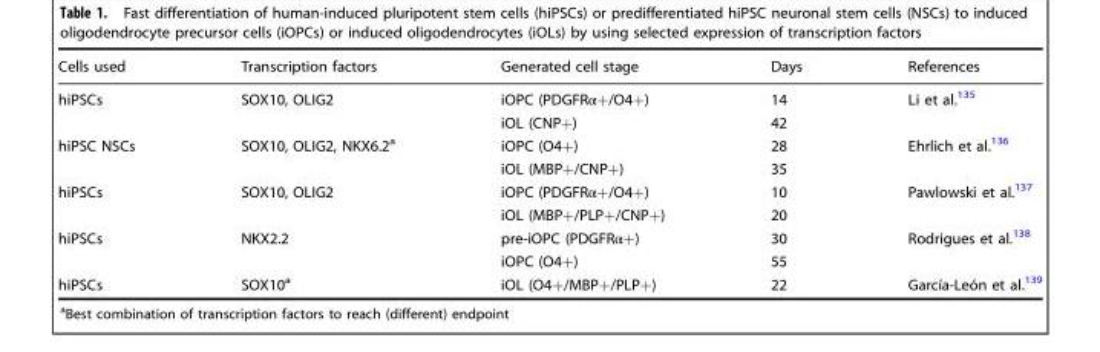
<table><thead><tr><td>Cells used</td><td>Transcription factors</td><td>Generated cell stage</td><td>Days</td><td>References</td></tr></thead><tbody><tr><td rowspan="2">hiPSCs</td><td rowspan="2">SOX10, OLIG2</td><td>iOPC (PDGFRα+/O4+)</td><td>14</td><td rowspan="2">Li et al.<sup>135</sup></td></tr><tr><td>iOL (CNP+)</td><td>42</td></tr><tr><td rowspan="2">hiPSC NSCs</td><td rowspan="2">SOX10, OLIG2, NKX6.2<sup>a</sup></td><td>iOPC (O4+)</td><td>28</td><td rowspan="2">Ehrlich et al.<sup>136</sup></td></tr><tr><td>iOL (MBP+/CNP+)</td><td>35</td></tr><tr><td rowspan="2">hiPSCs</td><td rowspan="2">SOX10, OLIG2</td><td>iOPC (PDGFRα+/O4+)</td><td>10</td><td rowspan="2">Pawlowski et al.<sup>137</sup></td></tr><tr><td>iOL (MBP+/PLP+/CNP+)</td><td>20</td></tr><tr><td rowspan="2">hiPSCs</td><td rowspan="2">NKX2.2</td><td>pre-iOPC (PDGFRα+)</td><td>30</td><td rowspan="2">Rodrigues et al.<sup>138</sup></td></tr><tr><td>iOPC (O4+)</td><td>55</td></tr><tr><td>hiPSCs</td><td>SOX10<sup>a</sup></td><td>iOL (O4+/MBP+/PLP+)</td><td>22</td><td>García-León et al.<sup>139</sup></td></tr></tbody></table>